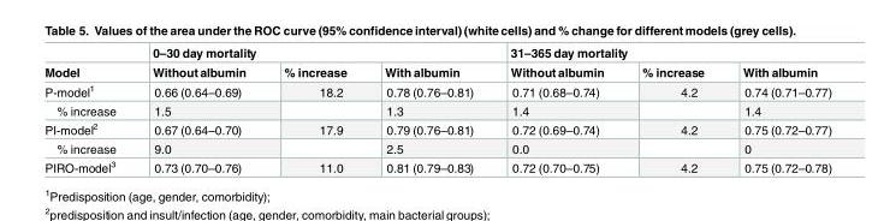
<table><thead><tr><td rowspan="2">Model</td><td colspan="3">0–30 day mortality</td><td colspan="3">31–365 day mortality</td></tr><tr><td>Without albumin</td><td>% increase</td><td>With albumin</td><td>Without albumin</td><td>% increase</td><td>With albumin</td></tr></thead><tbody><tr><td>P-model<sup>1</sup></td><td>0.66 (0.64–0.69)</td><td>18.2</td><td>0.78 (0.76–0.81)</td><td>0.71 (0.68–0.74)</td><td>4.2</td><td>0.74 (0.71–0.77)</td></tr><tr><td>% increase</td><td>1.5</td><td></td><td>1.3</td><td>1.4</td><td></td><td>1.4</td></tr><tr><td>PI-model<sup>2</sup></td><td>0.67 (0.64–0.70)</td><td>17.9</td><td>0.79 (0.76–0.81)</td><td>0.72 (0.69–0.74)</td><td>4.2</td><td>0.75 (0.72–0.77)</td></tr><tr><td>% increase</td><td>9.0</td><td></td><td>2.5</td><td>0.0</td><td></td><td>0</td></tr><tr><td>PIRO-model<sup>3</sup></td><td>0.73 (0.70–0.76)</td><td>11.0</td><td>0.81 (0.79–0.83)</td><td>0.72 (0.70–0.75)</td><td>4.2</td><td>0.75 (0.72–0.78)</td></tr></tbody></table>